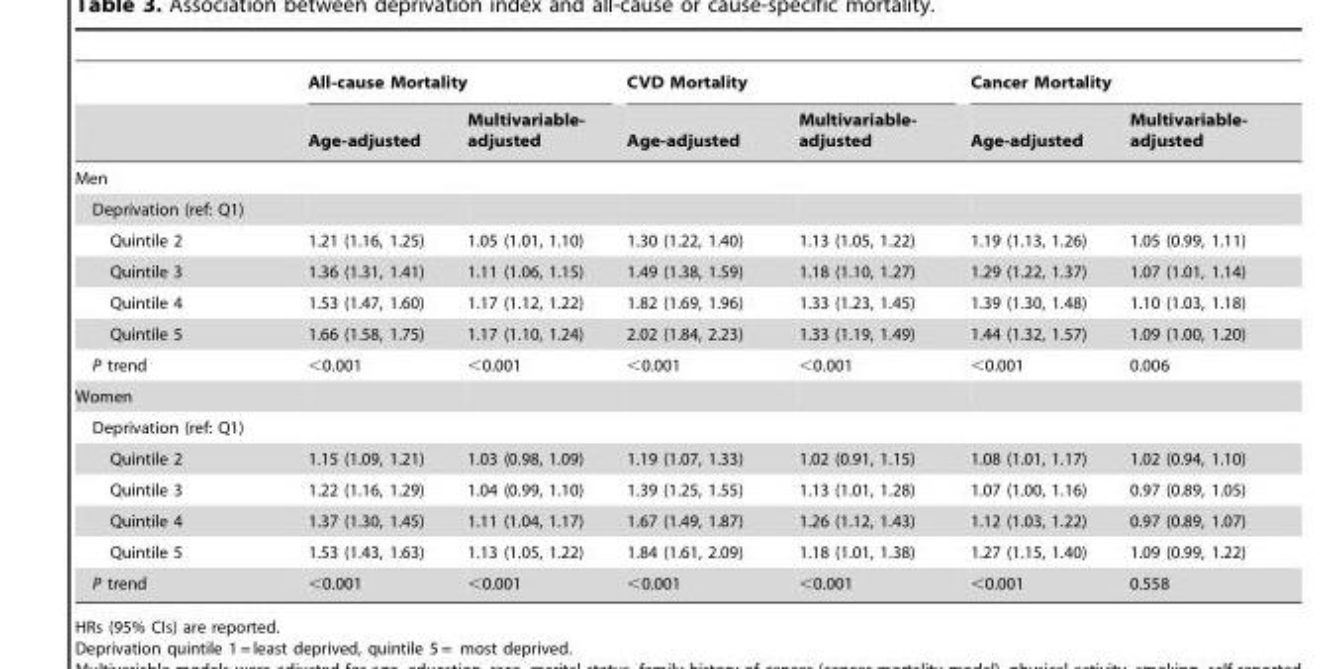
<table><thead><tr><td rowspan="2"></td><td colspan="2">All-cause Mortality</td><td colspan="2">CVD Mortality</td><td colspan="2">Cancer Mortality</td></tr><tr><td>Age-adjusted</td><td>Multivariable- adjusted</td><td>Age-adjusted</td><td>Multivariable- adjusted</td><td>Age-adjusted</td><td>Multivariable- adjusted</td></tr></thead><tbody><tr><td colspan="7">Men</td></tr><tr><td colspan="7">Deprivation (ref: Q1)</td></tr><tr><td>Quintile 2</td><td>1.21 (1.16, 1.25)</td><td>1.05 (1.01, 1.10)</td><td>1.30 (1.22, 1.40)</td><td>1.13 (1.05, 1.22)</td><td>1.19 (1.13, 1.26)</td><td>1.05 (0.99, 1.11)</td></tr><tr><td>Quintile 3</td><td>1.36 (1.31, 1.41)</td><td>1.11 (1.06, 1.15)</td><td>1.49 (1.38, 1.59)</td><td>1.18 (1.10, 1.27)</td><td>1.29 (1.22, 1.37)</td><td>1.07 (1.01, 1.14)</td></tr><tr><td>Quintile 4</td><td>1.53 (1.47, 1.60)</td><td>1.17 (1.12, 1.22)</td><td>1.82 (1.69, 1.96)</td><td>1.33 (1.23, 1.45)</td><td>1.39 (1.30, 1.48)</td><td>1.10 (1.03, 1.18)</td></tr><tr><td>Quintile 5</td><td>1.66 (1.58, 1.75)</td><td>1.17 (1.10, 1.24)</td><td>2.02 (1.84, 2.23)</td><td>1.33 (1.19, 1.49)</td><td>1.44 (1.32, 1.57)</td><td>1.09 (1.00, 1.20)</td></tr><tr><td>P trend</td><td>&lt;0.001</td><td>&lt;0.001</td><td>&lt;0.001</td><td>&lt;0.001</td><td>&lt;0.001</td><td>0.006</td></tr><tr><td colspan="7">Women</td></tr><tr><td colspan="7">Deprivation (ref: Q1)</td></tr><tr><td>Quintile 2</td><td>1.15 (1.09, 1.21)</td><td>1.03 (0.98, 1.09)</td><td>1.19 (1.07, 1.33)</td><td>1.02 (0.91, 1.15)</td><td>1.08 (1.01, 1.17)</td><td>1.02 (0.94, 1.10)</td></tr><tr><td>Quintile 3</td><td>1.22 (1.16, 1.29)</td><td>1.04 (0.99, 1.10)</td><td>1.39 (1.25, 1.55)</td><td>1.13 (1.01, 1.28)</td><td>1.07 (1.00, 1.16)</td><td>0.97 (0.89, 1.05)</td></tr><tr><td>Quintile 4</td><td>1.37 (1.30, 1.45)</td><td>1.11 (1.04, 1.17)</td><td>1.67 (1.49, 1.87)</td><td>1.26 (1.12, 1.43)</td><td>1.12 (1.03, 1.22)</td><td>0.97 (0.89, 1.07)</td></tr><tr><td>Quintile 5</td><td>1.53 (1.43, 1.63)</td><td>1.13 (1.05, 1.22)</td><td>1.84 (1.61, 2.09)</td><td>1.18 (1.01, 1.38)</td><td>1.27 (1.15, 1.40)</td><td>1.09 (0.99, 1.22)</td></tr><tr><td>P trend</td><td>&lt;0.001</td><td>&lt;0.001</td><td>&lt;0.001</td><td>&lt;0.001</td><td>&lt;0.001</td><td>0.558</td></tr></tbody></table>